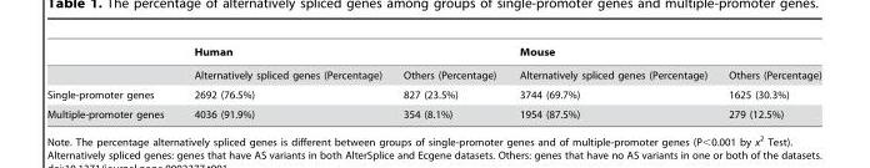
<table><thead><tr><td rowspan="2"></td><td colspan="2">Human</td><td colspan="2">Mouse</td></tr><tr><td>Alternatively spliced genes (Percentage)</td><td>Others (Percentage)</td><td>Alternatively spliced genes (Percentage)</td><td>Others (Percentage)</td></tr></thead><tbody><tr><td>Single-promoter genes</td><td>2692 (76.5%)</td><td>827 (23.5%)</td><td>3744 (69.7%)</td><td>1625 (30.3%)</td></tr><tr><td>Multiple-promoter genes</td><td>4036 (91.9%)</td><td>354 (8.1%)</td><td>1954 (87.5%)</td><td>279 (12.5%)</td></tr></tbody></table>